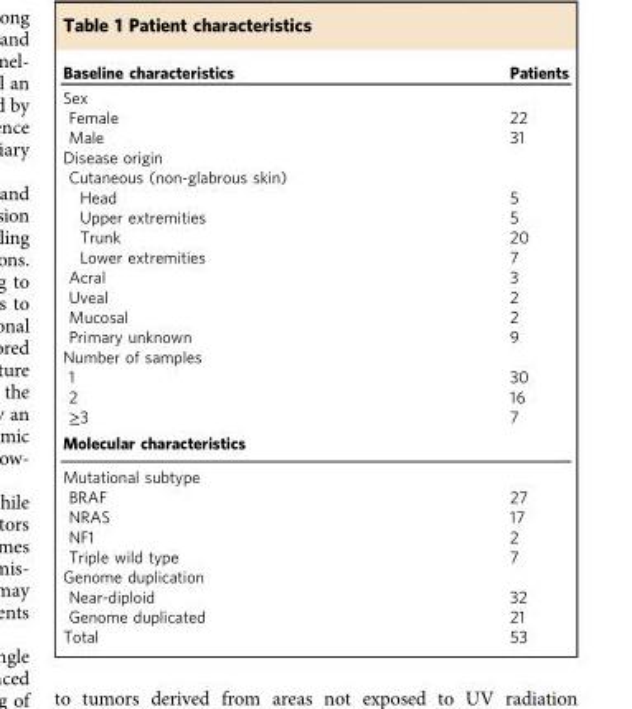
<table><thead><tr><td>Baseline characteristics</td><td>Patients</td></tr></thead><tbody><tr><td colspan="2">Sex</td></tr><tr><td>Female</td><td>22</td></tr><tr><td>Male</td><td>31</td></tr><tr><td colspan="2">Disease origin</td></tr><tr><td colspan="2">Cutaneous (non-glabrous skin)</td></tr><tr><td>Head</td><td>5</td></tr><tr><td>Upper extremities</td><td>5</td></tr><tr><td>Trunk</td><td>20</td></tr><tr><td>Lower extremities</td><td>7</td></tr><tr><td>Acral</td><td>3</td></tr><tr><td>Uveal</td><td>2</td></tr><tr><td>Mucosal</td><td>2</td></tr><tr><td>Primary unknown</td><td>9</td></tr><tr><td colspan="2">Number of samples</td></tr><tr><td>1</td><td>30</td></tr><tr><td>2</td><td>16</td></tr><tr><td>≥3</td><td>7</td></tr><tr><td colspan="2">Molecular characteristics</td></tr><tr><td colspan="2">Mutational subtype</td></tr><tr><td>BRAF</td><td>27</td></tr><tr><td>NRAS</td><td>17</td></tr><tr><td>NF1</td><td>2</td></tr><tr><td>Triple wild type</td><td>7</td></tr><tr><td colspan="2">Genome duplication</td></tr><tr><td>Near-diploid</td><td>32</td></tr><tr><td>Genome duplicated</td><td>21</td></tr><tr><td>Total</td><td>53</td></tr></tbody></table>